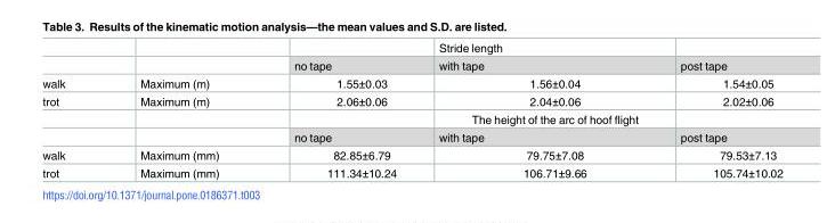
<table><thead><tr><td></td><td></td><td></td><td>Stride length</td><td></td></tr></thead><tbody><tr><td></td><td></td><td>no tape</td><td>with tape</td><td>post tape</td></tr><tr><td>walk</td><td>Maximum (m)</td><td>1.55±0.03</td><td>1.56±0.04</td><td>1.54±0.05</td></tr><tr><td rowspan="3">trot</td><td>Maximum (m)</td><td>2.06±0.06</td><td>2.04±0.06</td><td>2.02±0.06</td></tr><tr><td></td><td></td><td>The height of the arc of hoof flight</td><td></td></tr><tr><td></td><td>no tape</td><td>with tape</td><td>post tape</td></tr><tr><td>walk</td><td>Maximum (mm)</td><td>82.85±6.79</td><td>79.75±7.08</td><td>79.53±7.13</td></tr><tr><td>trot</td><td>Maximum (mm)</td><td>111.34±10.24</td><td>106.71±9.66</td><td>105.74±10.02</td></tr></tbody></table>